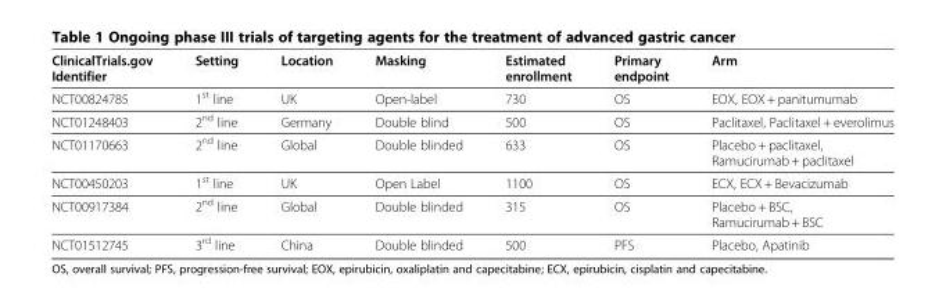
<table><thead><tr><td>ClinicalTrials.gov Identifier</td><td>Setting</td><td>Location</td><td>Masking</td><td>Estimated enrollment</td><td>Primary endpoint</td><td>Arm</td></tr></thead><tbody><tr><td>NCT00824785</td><td>1<sup>st</sup> line</td><td>UK</td><td>Open-label</td><td>730</td><td>OS</td><td>EOX, EOX + panitumumab</td></tr><tr><td>NCT01248403</td><td>2<sup>nd</sup> line</td><td>Germany</td><td>Double blind</td><td>500</td><td>OS</td><td>Paclitaxel, Paclitaxel + everolimus</td></tr><tr><td>NCT01170663</td><td>2<sup>nd</sup> line</td><td>Global</td><td>Double blinded</td><td>633</td><td>OS</td><td>Placebo + paclitaxel, Ramucirumab + paclitaxel</td></tr><tr><td>NCT00450203</td><td>1<sup>st</sup> line</td><td>UK</td><td>Open Label</td><td>1100</td><td>OS</td><td>ECX, ECX + Bevacizumab</td></tr><tr><td>NCT00917384</td><td>2<sup>nd</sup> line</td><td>Global</td><td>Double blinded</td><td>315</td><td>OS</td><td>Placebo + BSC, Ramucirumab + BSC</td></tr><tr><td>NCT01512745</td><td>3<sup>rd</sup> line</td><td>China</td><td>Double blinded</td><td>500</td><td>PFS</td><td>Placebo, Apatinib</td></tr></tbody></table>